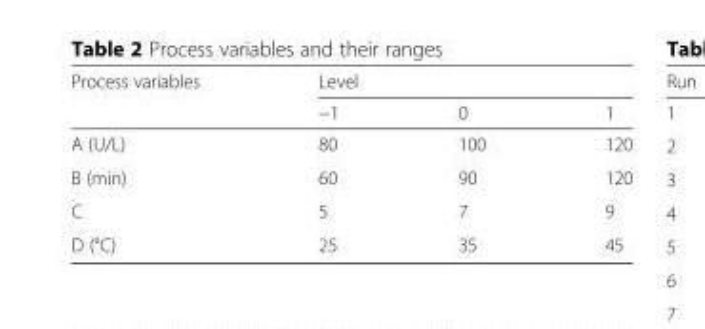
<table><thead><tr><td rowspan="2">Process variables</td><td colspan="3">Level</td></tr><tr><td>−1</td><td>0</td><td>1</td></tr></thead><tbody><tr><td>A (U/L)</td><td>80</td><td>100</td><td>120</td></tr><tr><td>B (min)</td><td>60</td><td>90</td><td>120</td></tr><tr><td>C</td><td>5</td><td>7</td><td>9</td></tr><tr><td>D (°C)</td><td>25</td><td>35</td><td>45</td></tr></tbody></table>